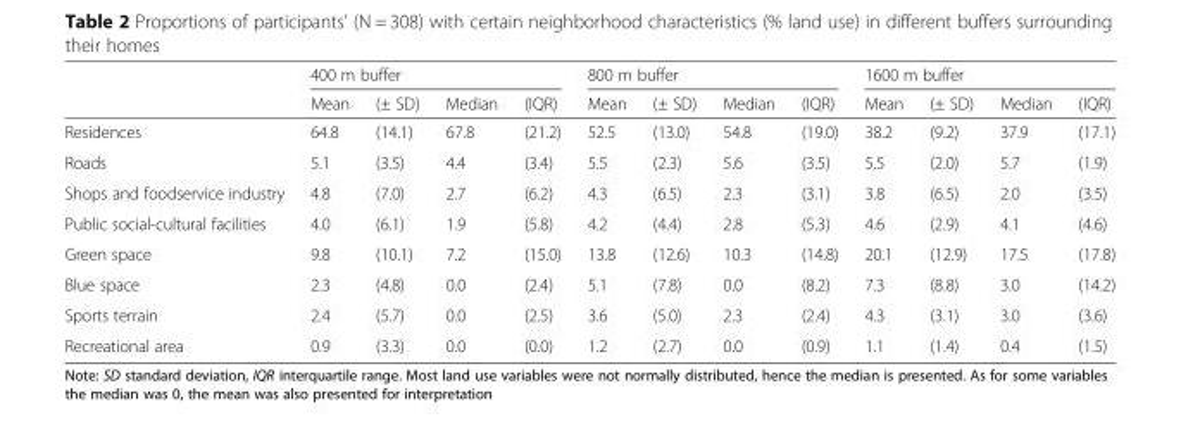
<table><thead><tr><td rowspan="2"></td><td colspan="4">400 m buffer</td><td colspan="4">800 m buffer</td><td colspan="4">1600 m buffer</td></tr><tr><td>Mean</td><td>(± SD)</td><td>Median</td><td>(IQR)</td><td>Mean</td><td>(± SD)</td><td>Median</td><td>(IQR)</td><td>Mean</td><td>(± SD)</td><td>Median</td><td>(IQR)</td></tr></thead><tbody><tr><td>Residences</td><td>64.8</td><td>(14.1)</td><td>67.8</td><td>(21.2)</td><td>52.5</td><td>(13.0)</td><td>54.8</td><td>(19.0)</td><td>38.2</td><td>(9.2)</td><td>37.9</td><td>(17.1)</td></tr><tr><td>Roads</td><td>5.1</td><td>(3.5)</td><td>4.4</td><td>(3.4)</td><td>5.5</td><td>(2.3)</td><td>5.6</td><td>(3.5)</td><td>5.5</td><td>(2.0)</td><td>5.7</td><td>(1.9)</td></tr><tr><td>Shops and foodservice industry</td><td>4.8</td><td>(7.0)</td><td>2.7</td><td>(6.2)</td><td>4.3</td><td>(6.5)</td><td>2.3</td><td>(3.1)</td><td>3.8</td><td>(6.5)</td><td>2.0</td><td>(3.5)</td></tr><tr><td>Public social-cultural facilities</td><td>4.0</td><td>(6.1)</td><td>1.9</td><td>(5.8)</td><td>4.2</td><td>(4.4)</td><td>2.8</td><td>(5.3)</td><td>4.6</td><td>(2.9)</td><td>4.1</td><td>(4.6)</td></tr><tr><td>Green space</td><td>9.8</td><td>(10.1)</td><td>7.2</td><td>(15.0)</td><td>13.8</td><td>(12.6)</td><td>10.3</td><td>(14.8)</td><td>20.1</td><td>(12.9)</td><td>17.5</td><td>(17.8)</td></tr><tr><td>Blue space</td><td>2.3</td><td>(4.8)</td><td>0.0</td><td>(2.4)</td><td>5.1</td><td>(7.8)</td><td>0.0</td><td>(8.2)</td><td>7.3</td><td>(8.8)</td><td>3.0</td><td>(14.2)</td></tr><tr><td>Sports terrain</td><td>2.4</td><td>(5.7)</td><td>0.0</td><td>(2.5)</td><td>3.6</td><td>(5.0)</td><td>2.3</td><td>(2.4)</td><td>4.3</td><td>(3.1)</td><td>3.0</td><td>(3.6)</td></tr><tr><td>Recreational area</td><td>0.9</td><td>(3.3)</td><td>0.0</td><td>(0.0)</td><td>1.2</td><td>(2.7)</td><td>0.0</td><td>(0.9)</td><td>1.1</td><td>(1.4)</td><td>0.4</td><td>(1.5)</td></tr></tbody></table>